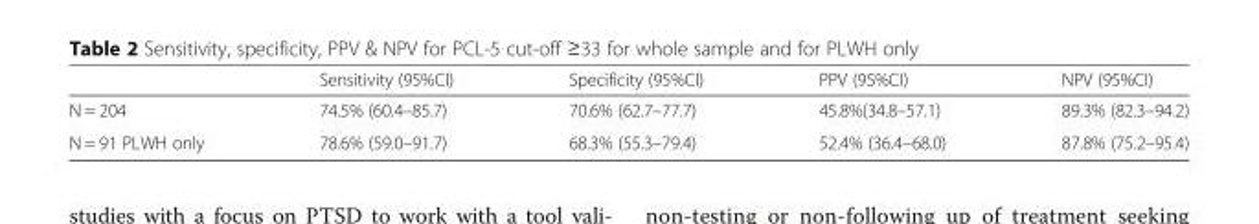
<table><thead><tr><td></td><td>Sensitivity (95%CI)</td><td>Specificity (95%CI)</td><td>PPV (95%CI)</td><td>NPV (95%CI)</td></tr></thead><tbody><tr><td>N = 204</td><td>74.5% (60.4–85.7)</td><td>70.6% (62.7–77.7)</td><td>45.8%(34.8–57.1)</td><td>89.3% (82.3–94.2)</td></tr><tr><td>N = 91 PLWH only</td><td>78.6% (59.0–91.7)</td><td>68.3% (55.3–79.4)</td><td>52.4% (36.4–68.0)</td><td>87.8% (75.2–95.4)</td></tr></tbody></table>